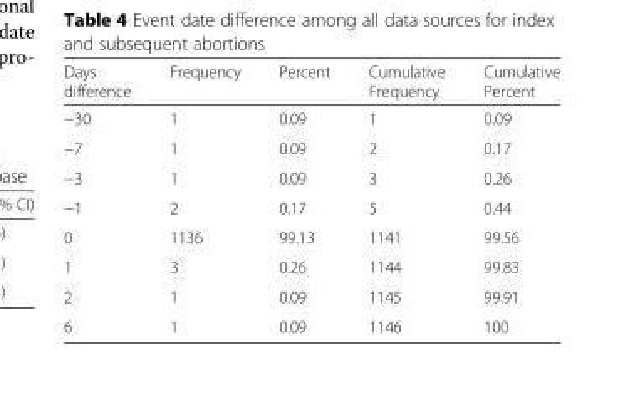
<table><thead><tr><td>Days difference</td><td>Frequency</td><td>Percent</td><td>Cumulative Frequency</td><td>Cumulative Percent</td></tr></thead><tbody><tr><td>−30</td><td>1</td><td>0.09</td><td>1</td><td>0.09</td></tr><tr><td>−7</td><td>1</td><td>0.09</td><td>2</td><td>0.17</td></tr><tr><td>−3</td><td>1</td><td>0.09</td><td>3</td><td>0.26</td></tr><tr><td>−1</td><td>2</td><td>0.17</td><td>5</td><td>0.44</td></tr><tr><td>0</td><td>1136</td><td>99.13</td><td>1141</td><td>99.56</td></tr><tr><td>1</td><td>3</td><td>0.26</td><td>1144</td><td>99.83</td></tr><tr><td>2</td><td>1</td><td>0.09</td><td>1145</td><td>99.91</td></tr><tr><td>6</td><td>1</td><td>0.09</td><td>1146</td><td>100</td></tr></tbody></table>